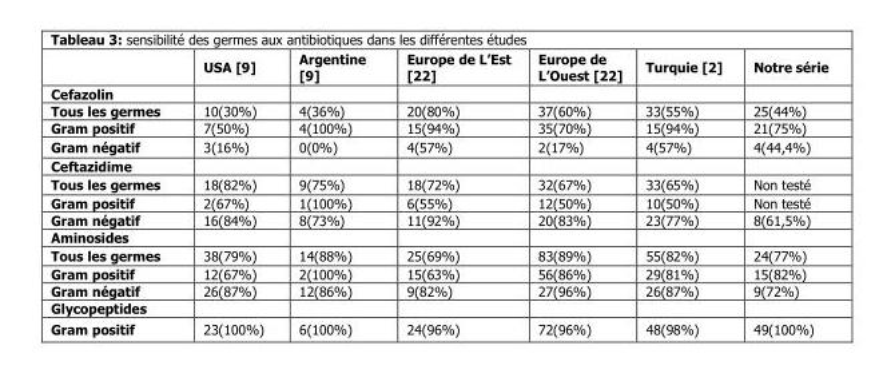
<table><thead><tr><td></td><td>USA [9]</td><td>Argentine [9]</td><td>Europe de L’Est [22]</td><td>Europe de L’Ouest [22]</td><td>Turquie [2]</td><td>Notre série</td></tr></thead><tbody><tr><td colspan="7">Cefazolin</td></tr><tr><td>Tous les germes</td><td>10(30%)</td><td>4(36%)</td><td>20(80%)</td><td>37(60%)</td><td>33(55%)</td><td>25(44%)</td></tr><tr><td>Gram positif</td><td>7(50%)</td><td>4(100%)</td><td>15(94%)</td><td>35(70%)</td><td>15(94%)</td><td>21(75%)</td></tr><tr><td>Gram négatif</td><td>3(16%)</td><td>0(0%)</td><td>4(57%)</td><td>2(17%)</td><td>4(57%)</td><td>4(44,4%)</td></tr><tr><td colspan="7">Ceftazidime</td></tr><tr><td>Tous les germes</td><td>18(82%)</td><td>9(75%)</td><td>18(72%)</td><td>32(67%)</td><td>33(65%)</td><td>Non testé</td></tr><tr><td>Gram positif</td><td>2(67%)</td><td>1(100%)</td><td>6(55%)</td><td>12(50%)</td><td>10(50%)</td><td>Non testé</td></tr><tr><td>Gram négatif</td><td>16(84%)</td><td>8(73%)</td><td>11(92%)</td><td>20(83%)</td><td>23(77%)</td><td>8(61,5%)</td></tr><tr><td colspan="7">Aminosides</td></tr><tr><td>Tous les germes</td><td>38(79%)</td><td>14(88%)</td><td>25(69%)</td><td>83(89%)</td><td>55(82%)</td><td>24(77%)</td></tr><tr><td>Gram positif</td><td>12(67%)</td><td>2(100%)</td><td>15(63%)</td><td>56(86%)</td><td>29(81%)</td><td>15(82%)</td></tr><tr><td>Gram négatif</td><td>26(87%)</td><td>12(86%)</td><td>9(82%)</td><td>27(96%)</td><td>26(87%)</td><td>9(72%)</td></tr><tr><td colspan="7">Glycopeptides</td></tr><tr><td>Gram positif</td><td>23(100%)</td><td>6(100%)</td><td>24(96%)</td><td>72(96%)</td><td>48(98%)</td><td>49(100%)</td></tr></tbody></table>